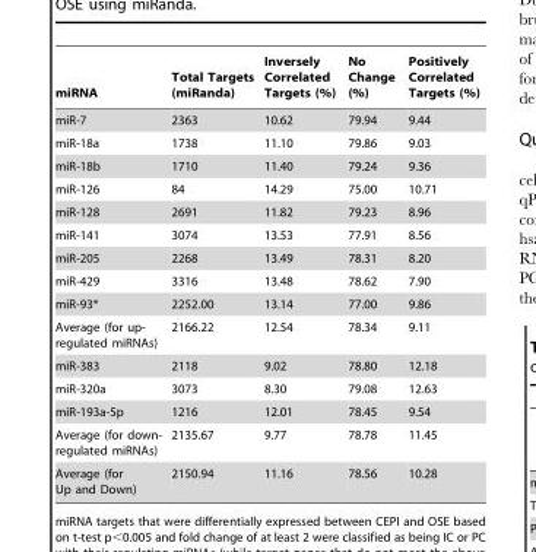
<table><thead><tr><td>miRNA</td><td>Total Targets (miRanda)</td><td>Inversely Correlated Targets (%)</td><td>No Change (%)</td><td>Positively Correlated Targets (%)</td></tr></thead><tbody><tr><td>miR-7</td><td>2363</td><td>10.62</td><td>79.94</td><td>9.44</td></tr><tr><td>miR-18a</td><td>1738</td><td>11.10</td><td>79.86</td><td>9.03</td></tr><tr><td>miR-18b</td><td>1710</td><td>11.40</td><td>79.24</td><td>9.36</td></tr><tr><td>miR-126</td><td>84</td><td>14.29</td><td>75.00</td><td>10.71</td></tr><tr><td>miR-128</td><td>2691</td><td>11.82</td><td>79.23</td><td>8.96</td></tr><tr><td>miR-141</td><td>3074</td><td>13.53</td><td>77.91</td><td>8.56</td></tr><tr><td>miR-205</td><td>2268</td><td>13.49</td><td>78.31</td><td>8.20</td></tr><tr><td>miR-429</td><td>3316</td><td>13.48</td><td>78.62</td><td>7.90</td></tr><tr><td>miR-93*</td><td>2252.00</td><td>13.14</td><td>77.00</td><td>9.86</td></tr><tr><td>Average (for up- regulated miRNAs)</td><td>2166.22</td><td>12.54</td><td>78.34</td><td>9.11</td></tr><tr><td>miR-383</td><td>2118</td><td>9.02</td><td>78.80</td><td>12.18</td></tr><tr><td>miR-320a</td><td>3073</td><td>8.30</td><td>79.08</td><td>12.63</td></tr><tr><td>miR-193a-5p</td><td>1216</td><td>12.01</td><td>78.45</td><td>9.54</td></tr><tr><td>Average (for down- regulated miRNAs)</td><td>2135.67</td><td>9.77</td><td>78.78</td><td>11.45</td></tr><tr><td>Average (for Up and Down)</td><td>2150.94</td><td>11.16</td><td>78.56</td><td>10.28</td></tr></tbody></table>